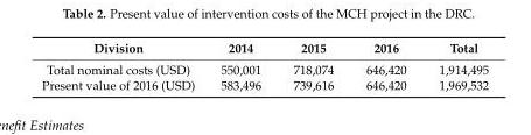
<table><thead><tr><td>Division</td><td>2014</td><td>2015</td><td>2016</td><td>Total</td></tr></thead><tbody><tr><td>Total nominal costs (USD)</td><td>550,001</td><td>718,074</td><td>646,420</td><td>1,914,495</td></tr><tr><td>Present value of 2016 (USD)</td><td>583,496</td><td>739,616</td><td>646,420</td><td>1,969,532</td></tr></tbody></table>